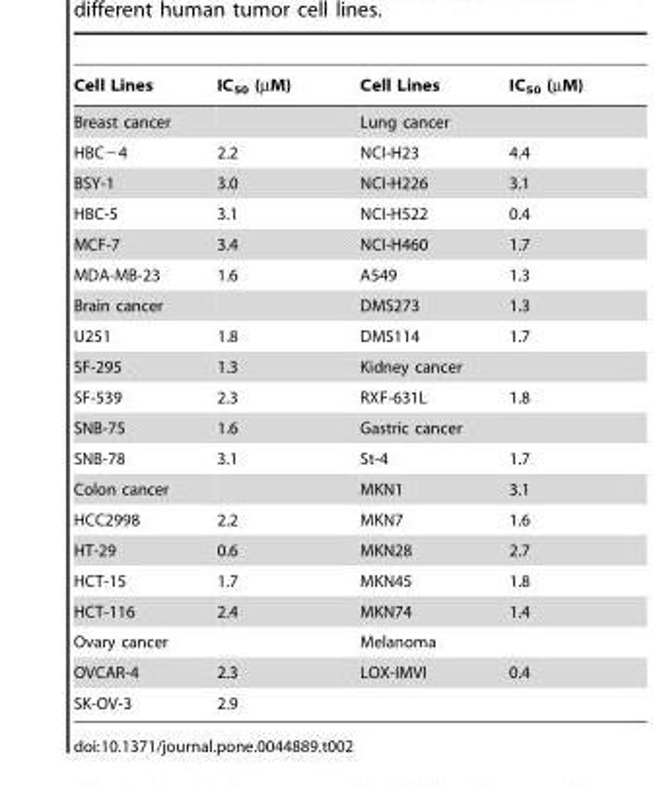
<table><thead><tr><td>Cell Lines</td><td>IC<sub>50</sub> (µM)</td><td>Cell Lines</td><td>IC<sub>50</sub> (µM)</td></tr></thead><tbody><tr><td>Breast cancer</td><td></td><td>Lung cancer</td><td></td></tr><tr><td>HBC−4</td><td>2.2</td><td>NCI-H23</td><td>4.4</td></tr><tr><td>BSY-1</td><td>3.0</td><td>NCI-H226</td><td>3.1</td></tr><tr><td>HBC-5</td><td>3.1</td><td>NCI-H522</td><td>0.4</td></tr><tr><td>MCF-7</td><td>3.4</td><td>NCI-H460</td><td>1.7</td></tr><tr><td>MDA-MB-23</td><td>1.6</td><td>A549</td><td>1.3</td></tr><tr><td>Brain cancer</td><td></td><td>DMS273</td><td>1.3</td></tr><tr><td>U251</td><td>1.8</td><td>DMS114</td><td>1.7</td></tr><tr><td>SF-295</td><td>1.3</td><td>Kidney cancer</td><td></td></tr><tr><td>SF-539</td><td>2.3</td><td>RXF-631L</td><td>1.8</td></tr><tr><td>SNB-75</td><td>1.6</td><td>Gastric cancer</td><td></td></tr><tr><td>SNB-78</td><td>3.1</td><td>St-4</td><td>1.7</td></tr><tr><td>Colon cancer</td><td></td><td>MKN1</td><td>3.1</td></tr><tr><td>HCC2998</td><td>2.2</td><td>MKN7</td><td>1.6</td></tr><tr><td>HT-29</td><td>0.6</td><td>MKN28</td><td>2.7</td></tr><tr><td>HCT-15</td><td>1.7</td><td>MKN45</td><td>1.8</td></tr><tr><td>HCT-116</td><td>2.4</td><td>MKN74</td><td>1.4</td></tr><tr><td>Ovary cancer</td><td></td><td>Melanoma</td><td></td></tr><tr><td>OVCAR-4</td><td>2.3</td><td>LOX-IMVI</td><td>0.4</td></tr><tr><td>SK-OV-3</td><td>2.9</td><td></td><td></td></tr></tbody></table>